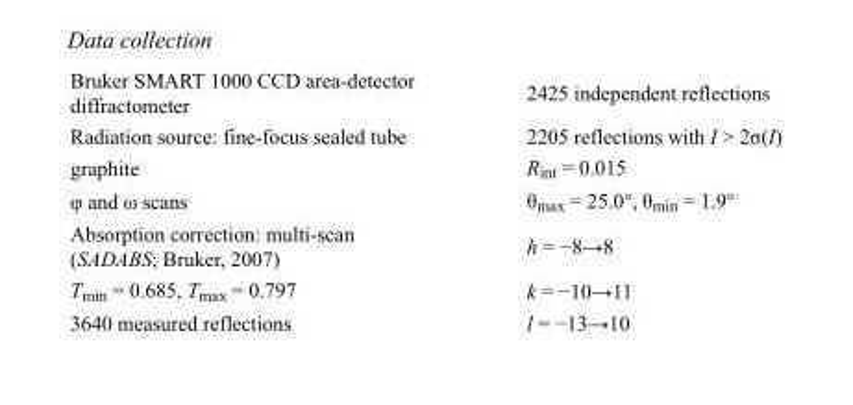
<table><tbody><tr><td>Bruker SMART 1000 CCD area-detector diffractometer</td><td>2425 independent reflections</td></tr><tr><td>Radiation source: fine-focus sealed tube</td><td>2205 reflections with I &gt; 2σ(I)</td></tr><tr><td>graphite</td><td>R<sub>int</sub> = 0.015</td></tr><tr><td>φ and ω scans</td><td>θ<sub>max</sub> = 25.0°, θ<sub>min</sub> = 1.9°</td></tr><tr><td>Absorption correction: multi-scan (SADABS; Bruker, 2007)</td><td>h = −8→8</td></tr><tr><td>T<sub>min</sub> = 0.685, T<sub>max</sub> = 0.797</td><td>k = −10→11</td></tr><tr><td>3640 measured reflections</td><td>l = −13→10</td></tr></tbody></table>